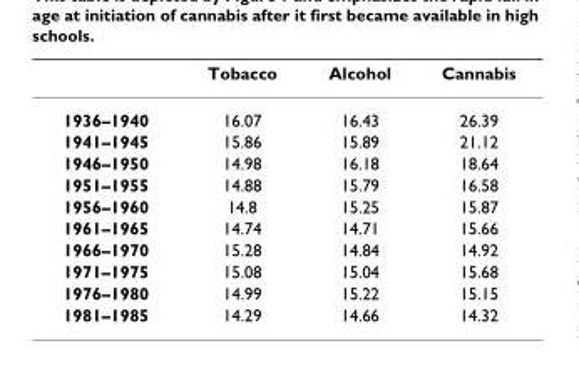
<table><thead><tr><td></td><td>Tobacco</td><td>Alcohol</td><td>Cannabis</td></tr></thead><tbody><tr><td>1936–1940</td><td>16.07</td><td>16.43</td><td>26.39</td></tr><tr><td>1941–1945</td><td>15.86</td><td>15.89</td><td>21.12</td></tr><tr><td>1946–1950</td><td>14.98</td><td>16.18</td><td>18.64</td></tr><tr><td>1951–1955</td><td>14.88</td><td>15.79</td><td>16.58</td></tr><tr><td>1956–1960</td><td>14.8</td><td>15.25</td><td>15.87</td></tr><tr><td>1961–1965</td><td>14.74</td><td>14.71</td><td>15.66</td></tr><tr><td>1966–1970</td><td>15.28</td><td>14.84</td><td>14.92</td></tr><tr><td>1971–1975</td><td>15.08</td><td>15.04</td><td>15.68</td></tr><tr><td>1976–1980</td><td>14.99</td><td>15.22</td><td>15.15</td></tr><tr><td>1981–1985</td><td>14.29</td><td>14.66</td><td>14.32</td></tr></tbody></table>